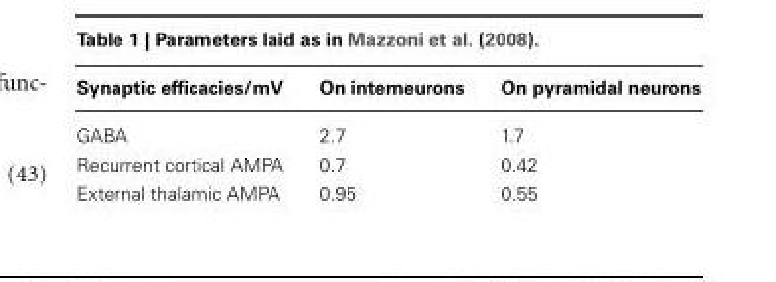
<table><thead><tr><td>Synaptic efficacies/mV</td><td>On interneurons</td><td>On pyramidal neurons</td></tr></thead><tbody><tr><td>GABA</td><td>2.7</td><td>1.7</td></tr><tr><td>Recurrent cortical AMPA</td><td>0.7</td><td>0.42</td></tr><tr><td>External thalamic AMPA</td><td>0.95</td><td>0.55</td></tr></tbody></table>